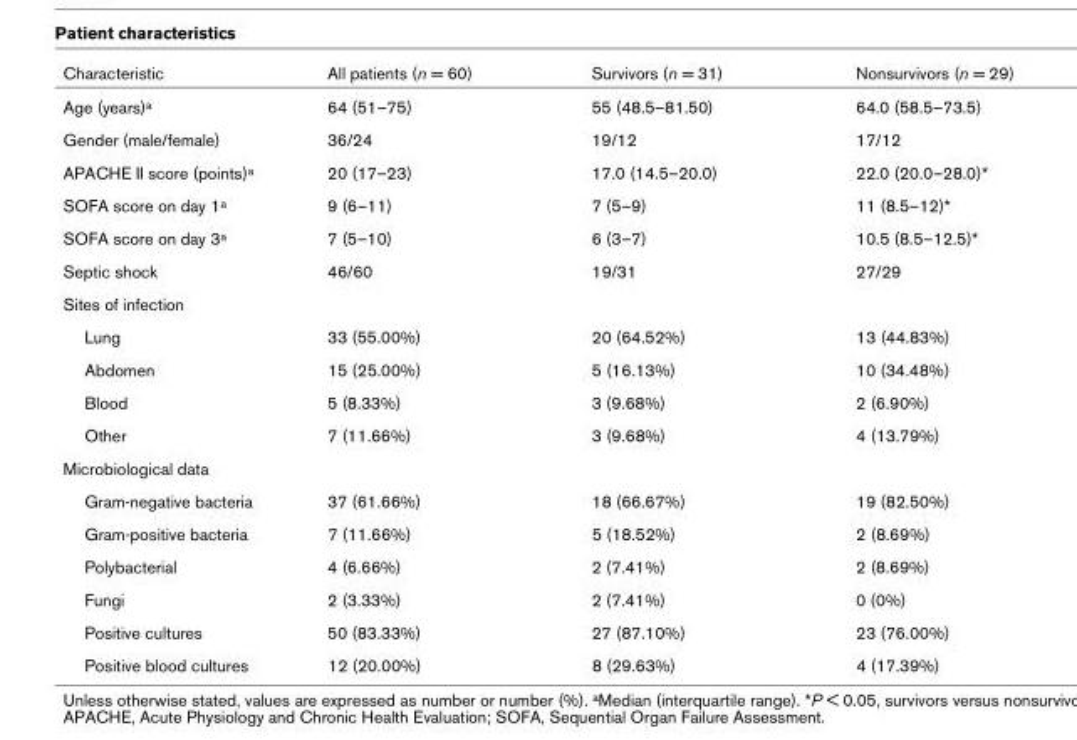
<table><thead><tr><td>Characteristic</td><td>All patients (n = 60)</td><td>Survivors (n = 31)</td><td>Nonsurvivors (n = 29)</td></tr></thead><tbody><tr><td>Age (years)<sup>a</sup></td><td>64 (51–75)</td><td>55 (48.5–81.50)</td><td>64.0 (58.5–73.5)</td></tr><tr><td>Gender (male/female)</td><td>36/24</td><td>19/12</td><td>17/12</td></tr><tr><td>APACHE II score (points)<sup>a</sup></td><td>20 (17–23)</td><td>17.0 (14.5–20.0)</td><td>22.0 (20.0–28.0)*</td></tr><tr><td>SOFA score on day 1<sup>a</sup></td><td>9 (6–11)</td><td>7 (5–9)</td><td>11 (8.5–12)*</td></tr><tr><td>SOFA score on day 3<sup>a</sup></td><td>7 (5–10)</td><td>6 (3–7)</td><td>10.5 (8.5–12.5)*</td></tr><tr><td>Septic shock</td><td>46/60</td><td>19/31</td><td>27/29</td></tr><tr><td colspan="4">Sites of infection</td></tr><tr><td>Lung</td><td>33 (55.00%)</td><td>20 (64.52%)</td><td>13 (44.83%)</td></tr><tr><td>Abdomen</td><td>15 (25.00%)</td><td>5 (16.13%)</td><td>10 (34.48%)</td></tr><tr><td>Blood</td><td>5 (8.33%)</td><td>3 (9.68%)</td><td>2 (6.90%)</td></tr><tr><td>Other</td><td>7 (11.66%)</td><td>3 (9.68%)</td><td>4 (13.79%)</td></tr><tr><td colspan="4">Microbiological data</td></tr><tr><td>Gram-negative bacteria</td><td>37 (61.66%)</td><td>18 (66.67%)</td><td>19 (82.50%)</td></tr><tr><td>Gram-positive bacteria</td><td>7 (11.66%)</td><td>5 (18.52%)</td><td>2 (8.69%)</td></tr><tr><td>Polybacterial</td><td>4 (6.66%)</td><td>2 (7.41%)</td><td>2 (8.69%)</td></tr><tr><td>Fungi</td><td>2 (3.33%)</td><td>2 (7.41%)</td><td>0 (0%)</td></tr><tr><td>Positive cultures</td><td>50 (83.33%)</td><td>27 (87.10%)</td><td>23 (76.00%)</td></tr><tr><td>Positive blood cultures</td><td>12 (20.00%)</td><td>8 (29.63%)</td><td>4 (17.39%)</td></tr></tbody></table>